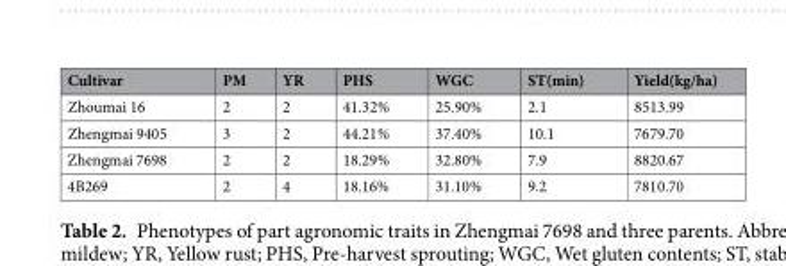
<table><thead><tr><td>Cultivar</td><td>PM</td><td>YR</td><td>PHS</td><td>WGC</td><td>ST(min)</td><td>Yield(kg/ha)</td></tr></thead><tbody><tr><td>Zhoumai 16</td><td>2</td><td>2</td><td>41.32%</td><td>25.90%</td><td>2.1</td><td>8513.99</td></tr><tr><td>Zhengmai 9405</td><td>3</td><td>2</td><td>44.21%</td><td>37.40%</td><td>10.1</td><td>7679.70</td></tr><tr><td>Zhengmai 7698</td><td>2</td><td>2</td><td>18.29%</td><td>32.80%</td><td>7.9</td><td>8820.67</td></tr><tr><td>4B269</td><td>2</td><td>4</td><td>18.16%</td><td>31.10%</td><td>9.2</td><td>7810.70</td></tr></tbody></table>